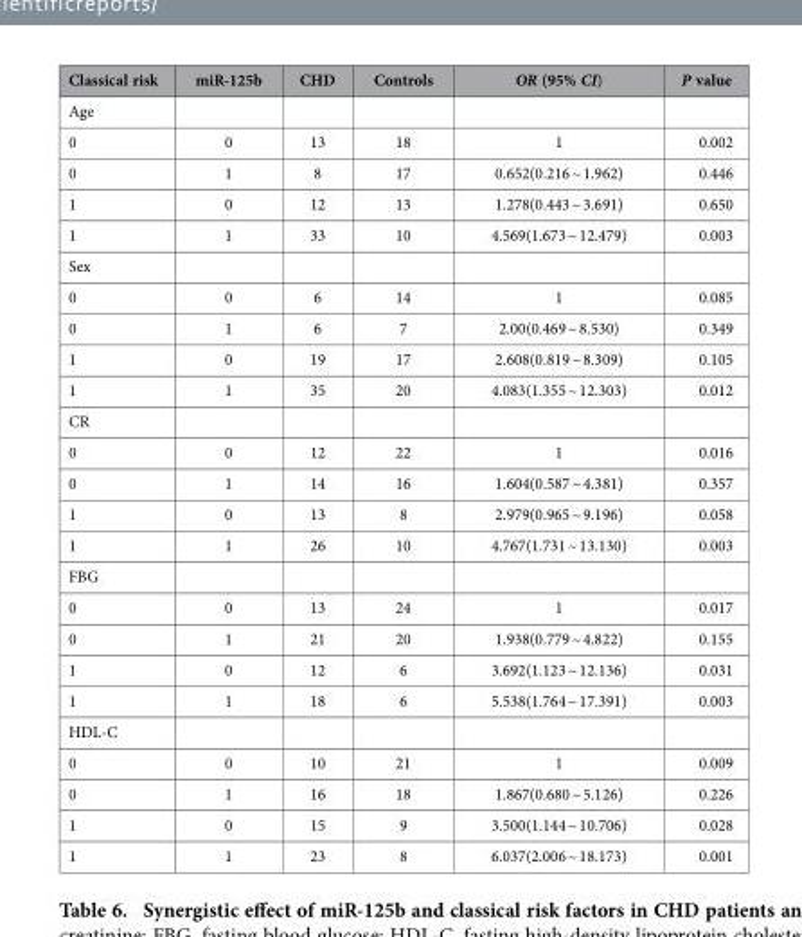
<table><thead><tr><td>Classical risk</td><td>miR-125b</td><td>CHD</td><td>Controls</td><td>OR (95% CI)</td><td>P value</td></tr></thead><tbody><tr><td colspan="6">Age</td></tr><tr><td>0</td><td>0</td><td>13</td><td>18</td><td>1</td><td>0.002</td></tr><tr><td>0</td><td>1</td><td>8</td><td>17</td><td>0.652(0.216 ~ 1.962)</td><td>0.446</td></tr><tr><td>1</td><td>0</td><td>12</td><td>13</td><td>1.278(0.443 ~ 3.691)</td><td>0.650</td></tr><tr><td>1</td><td>1</td><td>33</td><td>10</td><td>4.569(1.673 ~ 12.479)</td><td>0.003</td></tr><tr><td colspan="6">Sex</td></tr><tr><td>0</td><td>0</td><td>6</td><td>14</td><td>1</td><td>0.085</td></tr><tr><td>0</td><td>1</td><td>6</td><td>7</td><td>2.00(0.469 ~ 8.530)</td><td>0.349</td></tr><tr><td>1</td><td>0</td><td>19</td><td>17</td><td>2.608(0.819 ~ 8.309)</td><td>0.105</td></tr><tr><td>1</td><td>1</td><td>35</td><td>20</td><td>4.083(1.355 ~ 12.303)</td><td>0.012</td></tr><tr><td colspan="6">CR</td></tr><tr><td>0</td><td>0</td><td>12</td><td>22</td><td>1</td><td>0.016</td></tr><tr><td>0</td><td>1</td><td>14</td><td>16</td><td>1.604(0.587 ~ 4.381)</td><td>0.357</td></tr><tr><td>1</td><td>0</td><td>13</td><td>8</td><td>2.979(0.965 ~ 9.196)</td><td>0.058</td></tr><tr><td>1</td><td>1</td><td>26</td><td>10</td><td>4.767(1.731 ~ 13.130)</td><td>0.003</td></tr><tr><td colspan="6">FBG</td></tr><tr><td>0</td><td>0</td><td>13</td><td>24</td><td>1</td><td>0.017</td></tr><tr><td>0</td><td>1</td><td>21</td><td>20</td><td>1.938(0.779 ~ 4.822)</td><td>0.155</td></tr><tr><td>1</td><td>0</td><td>12</td><td>6</td><td>3.692(1.123 ~ 12.136)</td><td>0.031</td></tr><tr><td>1</td><td>1</td><td>18</td><td>6</td><td>5.538(1.764 ~ 17.391)</td><td>0.003</td></tr><tr><td colspan="6">HDL-C</td></tr><tr><td>0</td><td>0</td><td>10</td><td>21</td><td>1</td><td>0.009</td></tr><tr><td>0</td><td>1</td><td>16</td><td>18</td><td>1.867(0.680 ~ 5.126)</td><td>0.226</td></tr><tr><td>1</td><td>0</td><td>15</td><td>9</td><td>3.500(1.144 ~ 10.706)</td><td>0.028</td></tr><tr><td>1</td><td>1</td><td>23</td><td>8</td><td>6.037(2.006 ~ 18.173)</td><td>0.001</td></tr></tbody></table>